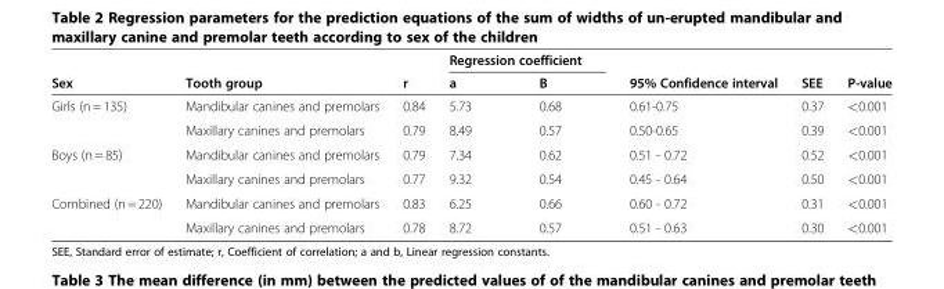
<table><thead><tr><td rowspan="2">Sex</td><td rowspan="2">Tooth group</td><td rowspan="2">r</td><td colspan="2">Regression coefficient</td><td rowspan="2">95% Confidence interval</td><td rowspan="2">SEE</td><td rowspan="2">P-value</td></tr><tr><td>a</td><td>B</td></tr></thead><tbody><tr><td rowspan="2">Girls (n = 135)</td><td>Mandibular canines and premolars</td><td>0.84</td><td>5.73</td><td>0.68</td><td>0.61-0.75</td><td>0.37</td><td>&lt;0.001</td></tr><tr><td>Maxillary canines and premolars</td><td>0.79</td><td>8.49</td><td>0.57</td><td>0.50-0.65</td><td>0.39</td><td>&lt;0.001</td></tr><tr><td rowspan="2">Boys (n = 85)</td><td>Mandibular canines and premolars</td><td>0.79</td><td>7.34</td><td>0.62</td><td>0.51 - 0.72</td><td>0.52</td><td>&lt;0.001</td></tr><tr><td>Maxillary canines and premolars</td><td>0.77</td><td>9.32</td><td>0.54</td><td>0.45 - 0.64</td><td>0.50</td><td>&lt;0.001</td></tr><tr><td rowspan="2">Combined (n = 220)</td><td>Mandibular canines and premolars</td><td>0.83</td><td>6.25</td><td>0.66</td><td>0.60 - 0.72</td><td>0.31</td><td>&lt;0.001</td></tr><tr><td>Maxillary canines and premolars</td><td>0.78</td><td>8.72</td><td>0.57</td><td>0.51 - 0.63</td><td>0.30</td><td>&lt;0.001</td></tr></tbody></table>